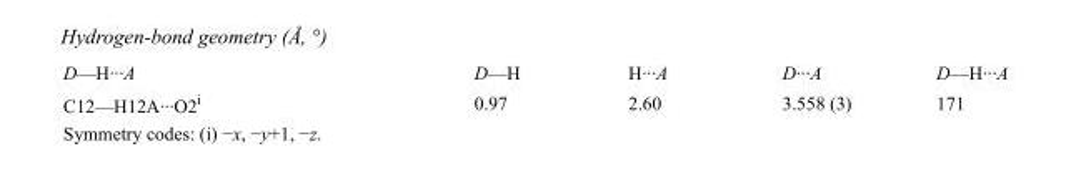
<table><tbody><tr><td>D—H···A</td><td>D—H</td><td>H···A</td><td>D···A</td><td>D—H···A</td></tr><tr><td>C12—H12A···O2<sup>i</sup></td><td>0.97</td><td>2.60</td><td>3.558 (3)</td><td>171</td></tr></tbody></table>